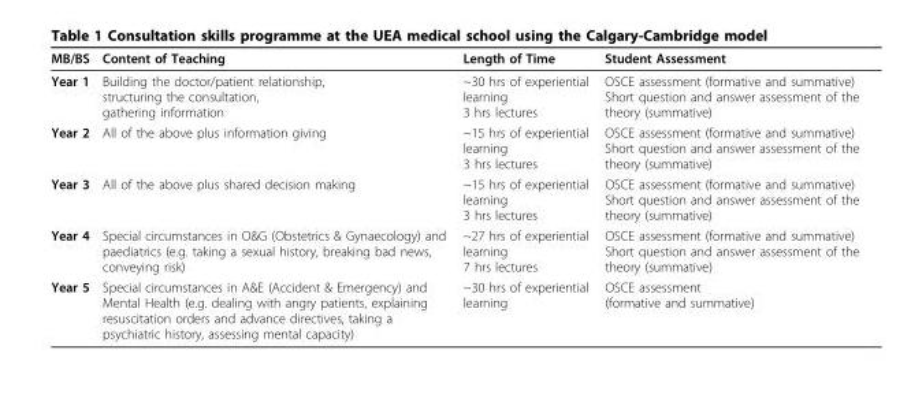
<table><thead><tr><td>MB/BS</td><td>Content of Teaching</td><td>Length of Time</td><td>Student Assessment</td></tr></thead><tbody><tr><td>Year 1</td><td>Building the doctor/patient relationship, structuring the consultation, gathering information</td><td>~30 hrs of experiential learning 3 hrs lectures</td><td>OSCE assessment (formative and summative) Short question and answer assessment of the theory (summative)</td></tr><tr><td>Year 2</td><td>All of the above plus information giving</td><td>~15 hrs of experiential learning 3 hrs lectures</td><td>OSCE assessment (formative and summative) Short question and answer assessment of the theory (summative)</td></tr><tr><td>Year 3</td><td>All of the above plus shared decision making</td><td>~15 hrs of experiential learning 3 hrs lectures</td><td>OSCE assessment (formative and summative) Short question and answer assessment of the theory (summative)</td></tr><tr><td>Year 4</td><td>Special circumstances in O&amp;G (Obstetrics &amp; Gynaecology) and paediatrics (e.g. taking a sexual history, breaking bad news, conveying risk)</td><td>~27 hrs of experiential learning 7 hrs lectures</td><td>OSCE assessment (formative and summative) Short question and answer assessment of the theory (summative)</td></tr><tr><td>Year 5</td><td>Special circumstances in A&amp;E (Accident &amp; Emergency) and Mental Health (e.g. dealing with angry patients, explaining resuscitation orders and advance directives, taking a psychiatric history, assessing mental capacity)</td><td>~30 hrs of experiential learning</td><td>OSCE assessment (formative and summative)</td></tr></tbody></table>